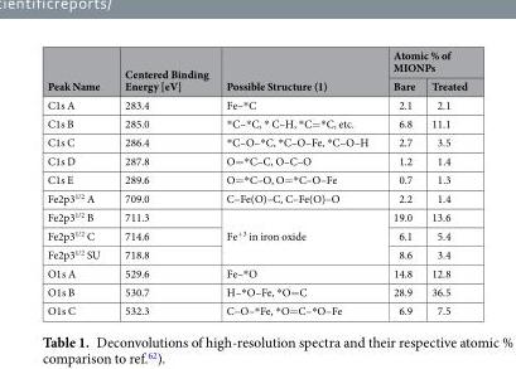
<table><thead><tr><td rowspan="2">Peak Name</td><td rowspan="2">Centered Binding Energy [eV]</td><td rowspan="2">Possible Structure (1)</td><td colspan="2">Atomic % of MIONPs</td></tr><tr><td>Bare</td><td>Treated</td></tr></thead><tbody><tr><td>C1s A</td><td>283.4</td><td>Fe–*C</td><td>2.1</td><td>2.1</td></tr><tr><td>C1s B</td><td>285.0</td><td>*C–*C, * C–H, *C=*C, etc.</td><td>6.8</td><td>11.1</td></tr><tr><td>C1s C</td><td>286.4</td><td>*C–O–*C, *C–O–Fe, *C–O–H</td><td>2.7</td><td>3.5</td></tr><tr><td>C1s D</td><td>287.8</td><td>O=*C–C, O–C–O</td><td>1.2</td><td>1.4</td></tr><tr><td>C1s E</td><td>289.6</td><td>O=*C–O, O=*C–O–Fe</td><td>0.7</td><td>1.3</td></tr><tr><td>Fe2p3<sup>1/2</sup> A</td><td>709.0</td><td>C–Fe(O)–C, C–Fe(O)–O</td><td>2.2</td><td>1.4</td></tr><tr><td>Fe2p3<sup>1/2</sup> B</td><td>711.3</td><td rowspan="3">Fe<sup>+3</sup> in iron oxide</td><td>19.0</td><td>13.6</td></tr><tr><td>Fe2p3<sup>1/2</sup> C</td><td>714.6</td><td>6.1</td><td>5.4</td></tr><tr><td>Fe2p3<sup>1/2</sup> SU</td><td>718.8</td><td>8.6</td><td>3.4</td></tr><tr><td>O1s A</td><td>529.6</td><td>Fe–*O</td><td>14.8</td><td>12.8</td></tr><tr><td>O1s B</td><td>530.7</td><td>H–*O–Fe, *O=C</td><td>28.9</td><td>36.5</td></tr><tr><td>O1s C</td><td>532.3</td><td>C–O–*Fe, *O=C–*O–Fe</td><td>6.9</td><td>7.5</td></tr></tbody></table>